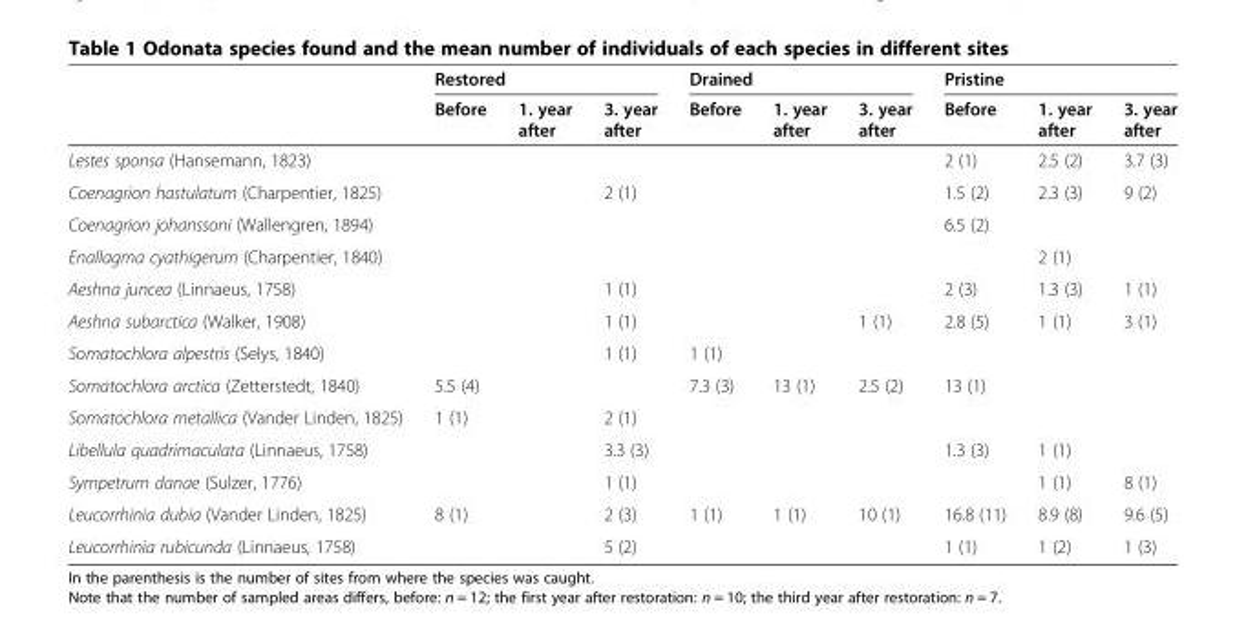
<table><thead><tr><td rowspan="2"></td><td colspan="3">Restored</td><td colspan="3">Drained</td><td colspan="3">Pristine</td></tr><tr><td>Before</td><td>1. year after</td><td>3. year after</td><td>Before</td><td>1. year after</td><td>3. year after</td><td>Before</td><td>1. year after</td><td>3. year after</td></tr></thead><tbody><tr><td>Lestes sponsa (Hansemann, 1823)</td><td></td><td></td><td></td><td></td><td></td><td></td><td>2 (1)</td><td>2.5 (2)</td><td>3.7 (3)</td></tr><tr><td>Coenagrion hastulatum (Charpentier, 1825)</td><td></td><td></td><td>2 (1)</td><td></td><td></td><td></td><td>1.5 (2)</td><td>2.3 (3)</td><td>9 (2)</td></tr><tr><td>Coenagrion johanssoni (Wallengren, 1894)</td><td></td><td></td><td></td><td></td><td></td><td></td><td>6.5 (2)</td><td></td><td></td></tr><tr><td>Enallagma cyathigerum (Charpentier, 1840)</td><td></td><td></td><td></td><td></td><td></td><td></td><td></td><td>2 (1)</td><td></td></tr><tr><td>Aeshna juncea (Linnaeus, 1758)</td><td></td><td></td><td>1 (1)</td><td></td><td></td><td></td><td>2 (3)</td><td>1.3 (3)</td><td>1 (1)</td></tr><tr><td>Aeshna subarctica (Walker, 1908)</td><td></td><td></td><td>1 (1)</td><td></td><td></td><td>1 (1)</td><td>2.8 (5)</td><td>1 (1)</td><td>3 (1)</td></tr><tr><td>Somatochlora alpestris (Selys, 1840)</td><td></td><td></td><td>1 (1)</td><td>1 (1)</td><td></td><td></td><td></td><td></td><td></td></tr><tr><td>Somatochlora arctica (Zetterstedt, 1840)</td><td>5.5 (4)</td><td></td><td></td><td>7.3 (3)</td><td>13 (1)</td><td>2.5 (2)</td><td>13 (1)</td><td></td><td></td></tr><tr><td>Somatochlora metallica (Vander Linden, 1825)</td><td>1 (1)</td><td></td><td>2 (1)</td><td></td><td></td><td></td><td></td><td></td><td></td></tr><tr><td>Libellula quadrimaculata (Linnaeus, 1758)</td><td></td><td></td><td>3.3 (3)</td><td></td><td></td><td></td><td>1.3 (3)</td><td>1 (1)</td><td></td></tr><tr><td>Sympetrum danae (Sulzer, 1776)</td><td></td><td></td><td>1 (1)</td><td></td><td></td><td></td><td></td><td>1 (1)</td><td>8 (1)</td></tr><tr><td>Leucorrhinia dubia (Vander Linden, 1825)</td><td>8 (1)</td><td></td><td>2 (3)</td><td>1 (1)</td><td>1 (1)</td><td>10 (1)</td><td>16.8 (11)</td><td>8.9 (8)</td><td>9.6 (5)</td></tr><tr><td>Leucorrhinia rubicunda (Linnaeus, 1758)</td><td></td><td></td><td>5 (2)</td><td></td><td></td><td></td><td>1 (1)</td><td>1 (2)</td><td>1 (3)</td></tr></tbody></table>